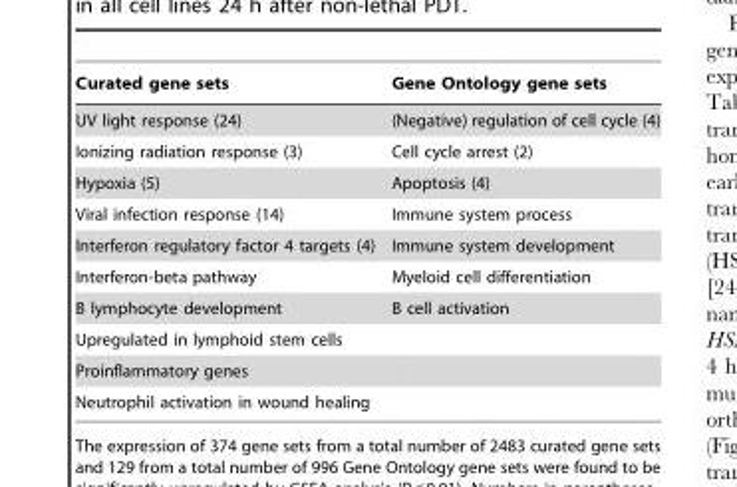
<table><thead><tr><td>Curated gene sets</td><td>Gene Ontology gene sets</td></tr></thead><tbody><tr><td>UV light response (24)</td><td>(Negative) regulation of cell cycle (4)</td></tr><tr><td>Ionizing radiation response (3)</td><td>Cell cycle arrest (2)</td></tr><tr><td>Hypoxia (5)</td><td>Apoptosis (4)</td></tr><tr><td>Viral infection response (14)</td><td>Immune system process</td></tr><tr><td>Interferon regulatory factor 4 targets (4)</td><td>Immune system development</td></tr><tr><td>Interferon-beta pathway</td><td>Myeloid cell differentiation</td></tr><tr><td>B lymphocyte development</td><td>B cell activation</td></tr><tr><td colspan="2">Upregulated in lymphoid stem cells</td></tr><tr><td colspan="2">Proinflammatory genes</td></tr><tr><td>Neutrophil activation in wound healing</td><td></td></tr></tbody></table>